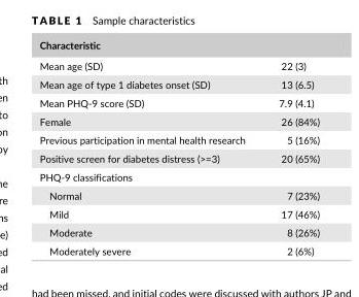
<table><thead><tr><td>Characteristic</td><td></td></tr></thead><tbody><tr><td>Mean age (SD)</td><td>22 (3)</td></tr><tr><td>Mean age of type 1 diabetes onset (SD)</td><td>13 (6.5)</td></tr><tr><td>Mean PHQ- 9 score (SD)</td><td>7.9 (4.1)</td></tr><tr><td>Female</td><td>26 (84%)</td></tr><tr><td>Previous participation in mental health research</td><td>5 (16%)</td></tr><tr><td>Positive screen for diabetes distress (&gt;=3)</td><td>20 (65%)</td></tr><tr><td colspan="2">PHQ- 9 classifications</td></tr><tr><td>Normal</td><td>7 (23%)</td></tr><tr><td>Mild</td><td>17 (46%)</td></tr><tr><td>Moderate</td><td>8 (26%)</td></tr><tr><td>Moderately severe</td><td>2 (6%)</td></tr></tbody></table>